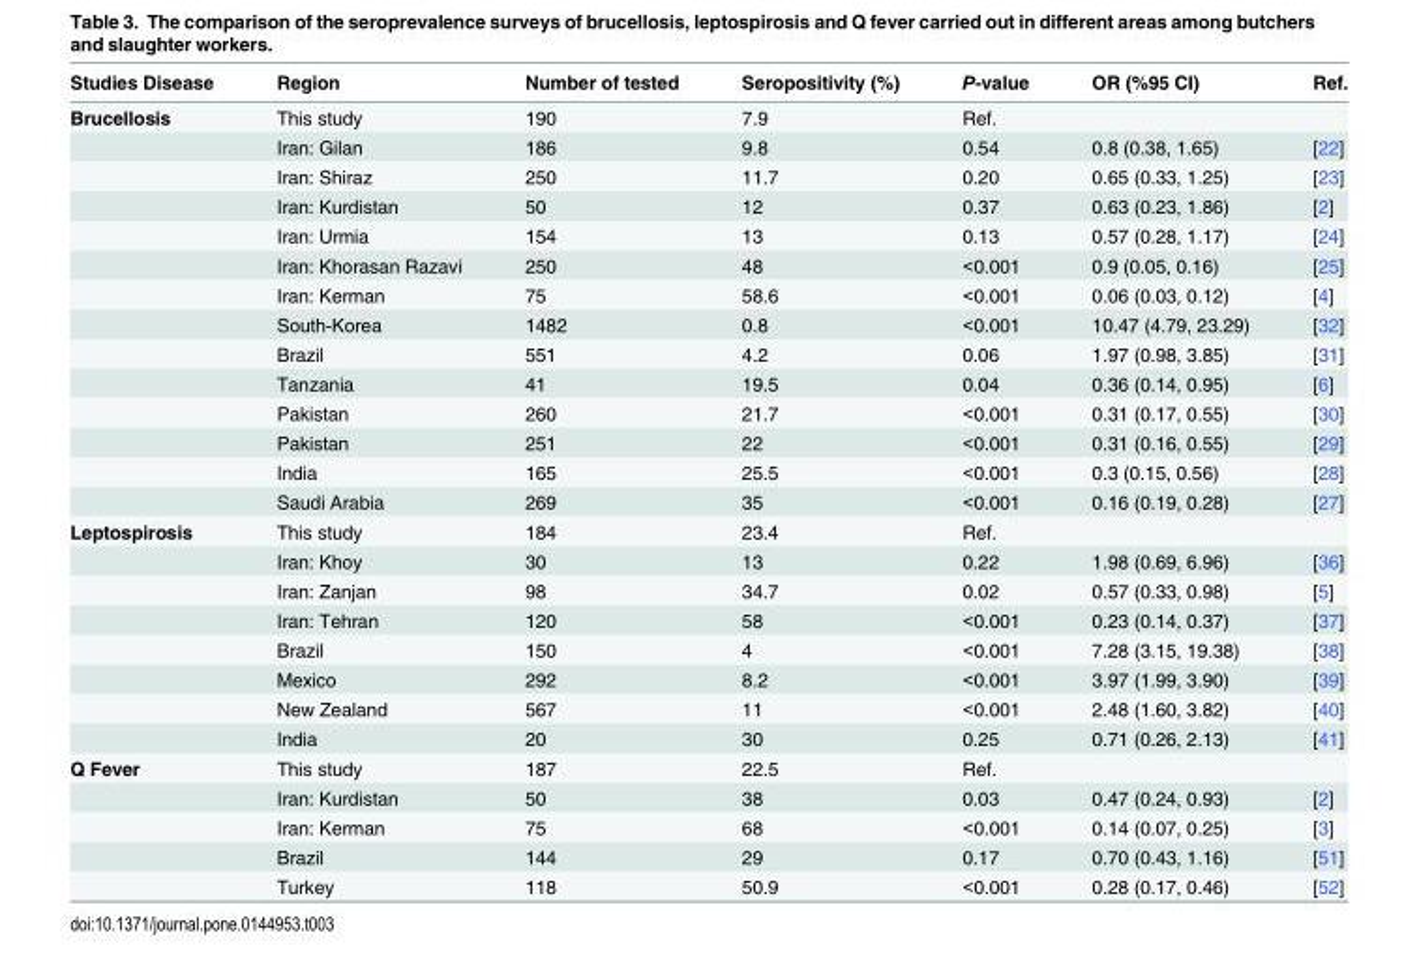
<table><thead><tr><td>Studies Disease</td><td>Region</td><td>Number of tested</td><td>Seropositivity (%)</td><td>P-value</td><td>OR (%95 CI)</td><td>Ref.</td></tr></thead><tbody><tr><td rowspan="14">Brucellosis</td><td>This study</td><td>190</td><td>7.9</td><td>Ref.</td><td></td><td></td></tr><tr><td>Iran: Gilan</td><td>186</td><td>9.8</td><td>0.54</td><td>0.8 (0.38, 1.65)</td><td>[22]</td></tr><tr><td>Iran: Shiraz</td><td>250</td><td>11.7</td><td>0.20</td><td>0.65 (0.33, 1.25)</td><td>[23]</td></tr><tr><td>Iran: Kurdistan</td><td>50</td><td>12</td><td>0.37</td><td>0.63 (0.23, 1.86)</td><td>[2]</td></tr><tr><td>Iran: Urmia</td><td>154</td><td>13</td><td>0.13</td><td>0.57 (0.28, 1.17)</td><td>[24]</td></tr><tr><td>Iran: Khorasan Razavi</td><td>250</td><td>48</td><td>&lt;0.001</td><td>0.9 (0.05, 0.16)</td><td>[25]</td></tr><tr><td>Iran: Kerman</td><td>75</td><td>58.6</td><td>&lt;0.001</td><td>0.06 (0.03, 0.12)</td><td>[4]</td></tr><tr><td>South-Korea</td><td>1482</td><td>0.8</td><td>&lt;0.001</td><td>10.47 (4.79, 23.29)</td><td>[32]</td></tr><tr><td>Brazil</td><td>551</td><td>4.2</td><td>0.06</td><td>1.97 (0.98, 3.85)</td><td>[31]</td></tr><tr><td>Tanzania</td><td>41</td><td>19.5</td><td>0.04</td><td>0.36 (0.14, 0.95)</td><td>[6]</td></tr><tr><td>Pakistan</td><td>260</td><td>21.7</td><td>&lt;0.001</td><td>0.31 (0.17, 0.55)</td><td>[30]</td></tr><tr><td>Pakistan</td><td>251</td><td>22</td><td>&lt;0.001</td><td>0.31 (0.16, 0.55)</td><td>[29]</td></tr><tr><td>India</td><td>165</td><td>25.5</td><td>&lt;0.001</td><td>0.3 (0.15, 0.56)</td><td>[28]</td></tr><tr><td>Saudi Arabia</td><td>269</td><td>35</td><td>&lt;0.001</td><td>0.16 (0.19, 0.28)</td><td>[27]</td></tr><tr><td rowspan="8">Leptospirosis</td><td>This study</td><td>184</td><td>23.4</td><td>Ref.</td><td></td><td></td></tr><tr><td>Iran: Khoy</td><td>30</td><td>13</td><td>0.22</td><td>1.98 (0.69, 6.96)</td><td>[36]</td></tr><tr><td>Iran: Zanjan</td><td>98</td><td>34.7</td><td>0.02</td><td>0.57 (0.33, 0.98)</td><td>[5]</td></tr><tr><td>Iran: Tehran</td><td>120</td><td>58</td><td>&lt;0.001</td><td>0.23 (0.14, 0.37)</td><td>[37]</td></tr><tr><td>Brazil</td><td>150</td><td>4</td><td>&lt;0.001</td><td>7.28 (3.15, 19.38)</td><td>[38]</td></tr><tr><td>Mexico</td><td>292</td><td>8.2</td><td>&lt;0.001</td><td>3.97 (1.99, 3.90)</td><td>[39]</td></tr><tr><td>New Zealand</td><td>567</td><td>11</td><td>&lt;0.001</td><td>2.48 (1.60, 3.82)</td><td>[40]</td></tr><tr><td>India</td><td>20</td><td>30</td><td>0.25</td><td>0.71 (0.26, 2.13)</td><td>[41]</td></tr><tr><td rowspan="5">Q Fever</td><td>This study</td><td>187</td><td>22.5</td><td>Ref.</td><td></td><td></td></tr><tr><td>Iran: Kurdistan</td><td>50</td><td>38</td><td>0.03</td><td>0.47 (0.24, 0.93)</td><td>[2]</td></tr><tr><td>Iran: Kerman</td><td>75</td><td>68</td><td>&lt;0.001</td><td>0.14 (0.07, 0.25)</td><td>[3]</td></tr><tr><td>Brazil</td><td>144</td><td>29</td><td>0.17</td><td>0.70 (0.43, 1.16)</td><td>[51]</td></tr><tr><td>Turkey</td><td>118</td><td>50.9</td><td>&lt;0.001</td><td>0.28 (0.17, 0.46)</td><td>[52]</td></tr></tbody></table>